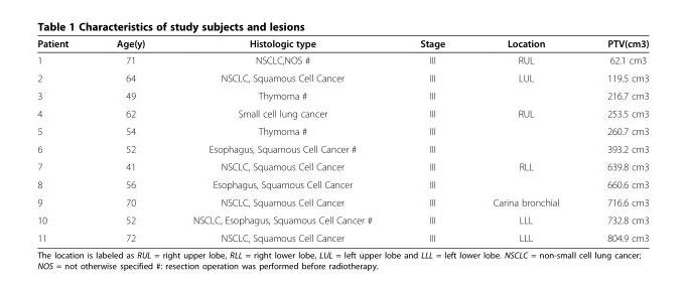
<table><thead><tr><td>Patient</td><td>Age(y)</td><td>Histologic type</td><td>Stage</td><td>Location</td><td>PTV(cm3)</td></tr></thead><tbody><tr><td>1</td><td>71</td><td>NSCLC,NOS #</td><td>III</td><td>RUL</td><td>62.1 cm3</td></tr><tr><td>2</td><td>64</td><td>NSCLC, Squamous Cell Cancer</td><td>III</td><td>LUL</td><td>119.5 cm3</td></tr><tr><td>3</td><td>49</td><td>Thymoma #</td><td>III</td><td></td><td>216.7 cm3</td></tr><tr><td>4</td><td>62</td><td>Small cell lung cancer</td><td>III</td><td>RUL</td><td>253.5 cm3</td></tr><tr><td>5</td><td>54</td><td>Thymoma #</td><td>III</td><td></td><td>260.7 cm3</td></tr><tr><td>6</td><td>52</td><td>Esophagus, Squamous Cell Cancer #</td><td>III</td><td></td><td>393.2 cm3</td></tr><tr><td>7</td><td>41</td><td>NSCLC, Squamous Cell Cancer</td><td>III</td><td>RLL</td><td>639.8 cm3</td></tr><tr><td>8</td><td>56</td><td>Esophagus, Squamous Cell Cancer</td><td>III</td><td></td><td>660.6 cm3</td></tr><tr><td>9</td><td>70</td><td>NSCLC, Squamous Cell Cancer</td><td>III</td><td>Carina bronchial</td><td>716.6 cm3</td></tr><tr><td>10</td><td>52</td><td>NSCLC, Esophagus, Squamous Cell Cancer #</td><td>III</td><td>LLL</td><td>732.8 cm3</td></tr><tr><td>11</td><td>72</td><td>NSCLC, Squamous Cell Cancer</td><td>III</td><td>LLL</td><td>804.9 cm3</td></tr></tbody></table>